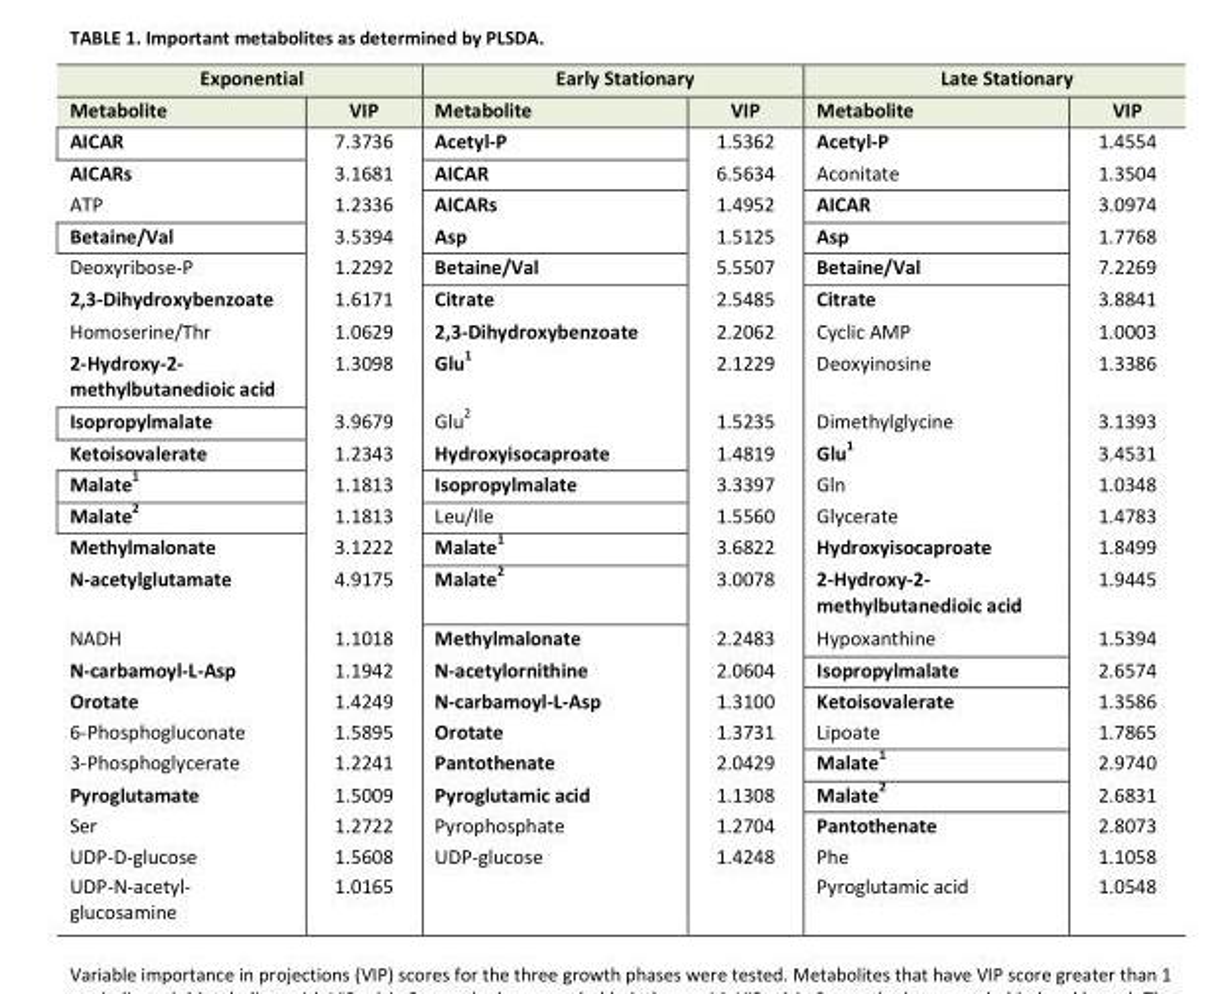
<table><thead><tr><td colspan="2">Exponential</td><td colspan="2">Early Stationary</td><td colspan="2">Late Stationary</td></tr><tr><td>Metabolite</td><td>VIP</td><td>Metabolite</td><td>VIP</td><td>Metabolite</td><td>VIP</td></tr></thead><tbody><tr><td>AICAR</td><td>7.3736</td><td>Acetyl-P</td><td>1.5362</td><td>Acetyl-P</td><td>1.4554</td></tr><tr><td>AICARs</td><td>3.1681</td><td>AICAR</td><td>6.5634</td><td>Aconitate</td><td>1.3504</td></tr><tr><td>ATP</td><td>1.2336</td><td>AICARs</td><td>1.4952</td><td>AICAR</td><td>3.0974</td></tr><tr><td>Betaine/Val</td><td>3.5394</td><td>Asp</td><td>1.5125</td><td>Asp</td><td>1.7768</td></tr><tr><td>Deoxyribose-P</td><td>1.2292</td><td>Betaine/Val</td><td>5.5507</td><td>Betaine/Val</td><td>7.2269</td></tr><tr><td>2,3-Dihydroxybenzoate</td><td>1.6171</td><td>Citrate</td><td>2.5485</td><td>Citrate</td><td>3.8841</td></tr><tr><td>Homoserine/Thr</td><td>1.0629</td><td>2,3-Dihydroxybenzoate</td><td>2.2062</td><td>Cyclic AMP</td><td>1.0003</td></tr><tr><td>2-Hydroxy-2- methylbutanedioic acid</td><td>1.3098</td><td>Glu<sup>1</sup></td><td>2.1229</td><td>Deoxyinosine</td><td>1.3386</td></tr><tr><td>Isopropylmalate</td><td>3.9679</td><td>Glu<sup>2</sup></td><td>1.5235</td><td>Dimethylglycine</td><td>3.1393</td></tr><tr><td>Ketoisovalerate</td><td>1.2343</td><td>Hydroxyisocaproate</td><td>1.4819</td><td>Glu<sup>1</sup></td><td>3.4531</td></tr><tr><td>Malate<sup>1</sup></td><td>1.1813</td><td>Isopropylmalate</td><td>3.3397</td><td>Gln</td><td>1.0348</td></tr><tr><td>Malate<sup>2</sup></td><td>1.1813</td><td>Leu/Ile</td><td>1.5560</td><td>Glycerate</td><td>1.4783</td></tr><tr><td>Methylmalonate</td><td>3.1222</td><td>Malate<sup>1</sup></td><td>3.6822</td><td>Hydroxyisocaproate</td><td>1.8499</td></tr><tr><td>N-acetylglutamate</td><td>4.9175</td><td>Malate<sup>2</sup></td><td>3.0078</td><td>2-Hydroxy-2- methylbutanedioic acid</td><td>1.9445</td></tr><tr><td>NADH</td><td>1.1018</td><td>Methylmalonate</td><td>2.2483</td><td>Hypoxanthine</td><td>1.5394</td></tr><tr><td>N-carbamoyl-L-Asp</td><td>1.1942</td><td>N-acetylornithine</td><td>2.0604</td><td>Isopropylmalate</td><td>2.6574</td></tr><tr><td>Orotate</td><td>1.4249</td><td>N-carbamoyl-L-Asp</td><td>1.3100</td><td>Ketoisovalerate</td><td>1.3586</td></tr><tr><td>6-Phosphogluconate</td><td>1.5895</td><td>Orotate</td><td>1.3731</td><td>Lipoate</td><td>1.7865</td></tr><tr><td>3-Phosphoglycerate</td><td>1.2241</td><td>Pantothenate</td><td>2.0429</td><td>Malate<sup>1</sup></td><td>2.9740</td></tr><tr><td>Pyroglutamate</td><td>1.5009</td><td>Pyroglutamic acid</td><td>1.1308</td><td>Malate<sup>2</sup></td><td>2.6831</td></tr><tr><td>Ser</td><td>1.2722</td><td>Pyrophosphate</td><td>1.2704</td><td>Pantothenate</td><td>2.8073</td></tr><tr><td>UDP-D-glucose</td><td>1.5608</td><td>UDP-glucose</td><td>1.4248</td><td>Phe</td><td>1.1058</td></tr><tr><td>UDP-N-acetyl- glucosamine</td><td>1.0165</td><td></td><td></td><td>Pyroglutamic acid</td><td>1.0548</td></tr></tbody></table>